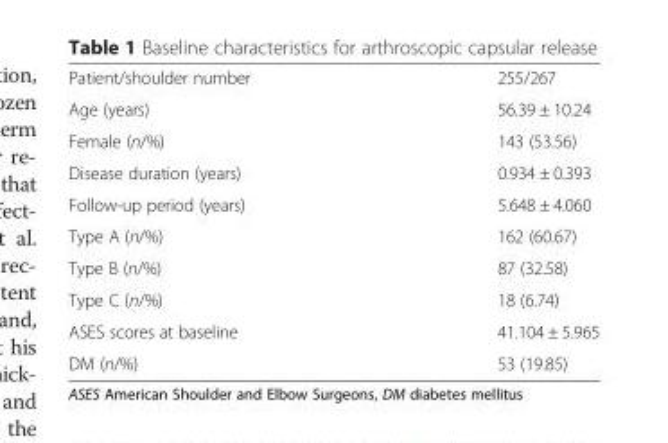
<table><tbody><tr><td>Patient/shoulder number</td><td>255/267</td></tr><tr><td>Age (years)</td><td>56.39 ± 10.24</td></tr><tr><td>Female (n/%)</td><td>143 (53.56)</td></tr><tr><td>Disease duration (years)</td><td>0.934 ± 0.393</td></tr><tr><td>Follow-up period (years)</td><td>5.648 ± 4.060</td></tr><tr><td>Type A (n/%)</td><td>162 (60.67)</td></tr><tr><td>Type B (n/%)</td><td>87 (32.58)</td></tr><tr><td>Type C (n/%)</td><td>18 (6.74)</td></tr><tr><td>ASES scores at baseline</td><td>41.104 ± 5.965</td></tr><tr><td>DM (n/%)</td><td>53 (19.85)</td></tr></tbody></table>